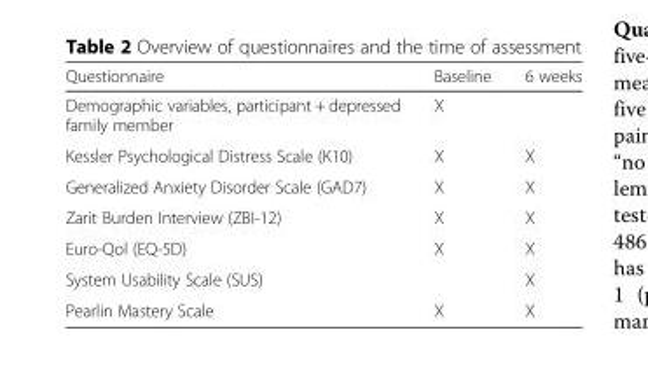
<table><thead><tr><td>Questionnaire</td><td>Baseline</td><td>6 weeks</td></tr></thead><tbody><tr><td>Demographic variables, participant + depressed family member</td><td>X</td><td></td></tr><tr><td>Kessler Psychological Distress Scale (K10)</td><td>X</td><td>X</td></tr><tr><td>Generalized Anxiety Disorder Scale (GAD7)</td><td>X</td><td>X</td></tr><tr><td>Zarit Burden Interview (ZBI-12)</td><td>X</td><td>X</td></tr><tr><td>Euro-Qol (EQ-5D)</td><td>X</td><td>X</td></tr><tr><td>System Usability Scale (SUS)</td><td></td><td>X</td></tr><tr><td>Pearlin Mastery Scale</td><td>X</td><td>X</td></tr></tbody></table>